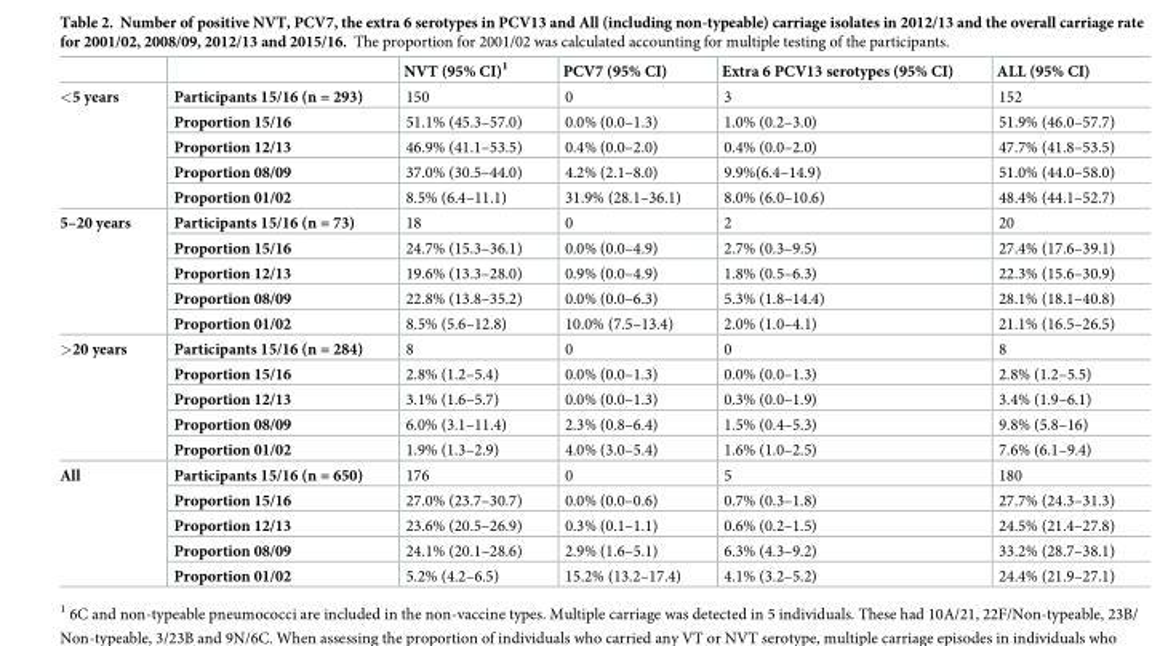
<table><thead><tr><td></td><td></td><td>NVT (95% CI)<sup>1</sup></td><td>PCV7 (95% CI)</td><td>Extra 6 PCV13 serotypes (95% CI)</td><td>ALL (95% CI)</td></tr></thead><tbody><tr><td rowspan="5">&lt;5 years</td><td>Participants 15/16 (n = 293)</td><td>150</td><td>0</td><td>3</td><td>152</td></tr><tr><td>Proportion 15/16</td><td>51.1% (45.3–57.0)</td><td>0.0% (0.0–1.3)</td><td>1.0% (0.2–3.0)</td><td>51.9% (46.0–57.7)</td></tr><tr><td>Proportion 12/13</td><td>46.9% (41.1–53.5)</td><td>0.4% (0.0–2.0)</td><td>0.4% (0.0–2.0)</td><td>47.7% (41.8–53.5)</td></tr><tr><td>Proportion 08/09</td><td>37.0% (30.5–44.0)</td><td>4.2% (2.1–8.0)</td><td>9.9%(6.4–14.9)</td><td>51.0% (44.0–58.0)</td></tr><tr><td>Proportion 01/02</td><td>8.5% (6.4–11.1)</td><td>31.9% (28.1–36.1)</td><td>8.0% (6.0–10.6)</td><td>48.4% (44.1–52.7)</td></tr><tr><td rowspan="5">5–20 years</td><td>Participants 15/16 (n = 73)</td><td>18</td><td>0</td><td>2</td><td>20</td></tr><tr><td>Proportion 15/16</td><td>24.7% (15.3–36.1)</td><td>0.0% (0.0–4.9)</td><td>2.7% (0.3–9.5)</td><td>27.4% (17.6–39.1)</td></tr><tr><td>Proportion 12/13</td><td>19.6% (13.3–28.0)</td><td>0.9% (0.0–4.9)</td><td>1.8% (0.5–6.3)</td><td>22.3% (15.6–30.9)</td></tr><tr><td>Proportion 08/09</td><td>22.8% (13.8–35.2)</td><td>0.0% (0.0–6.3)</td><td>5.3% (1.8–14.4)</td><td>28.1% (18.1–40.8)</td></tr><tr><td>Proportion 01/02</td><td>8.5% (5.6–12.8)</td><td>10.0% (7.5–13.4)</td><td>2.0% (1.0–4.1)</td><td>21.1% (16.5–26.5)</td></tr><tr><td rowspan="5">&gt;20 years</td><td>Participants 15/16 (n = 284)</td><td>8</td><td>0</td><td>0</td><td>8</td></tr><tr><td>Proportion 15/16</td><td>2.8% (1.2–5.4)</td><td>0.0% (0.0–1.3)</td><td>0.0% (0.0–1.3)</td><td>2.8% (1.2–5.5)</td></tr><tr><td>Proportion 12/13</td><td>3.1% (1.6–5.7)</td><td>0.0% (0.0–1.3)</td><td>0.3% (0.0–1.9)</td><td>3.4% (1.9–6.1)</td></tr><tr><td>Proportion 08/09</td><td>6.0% (3.1–11.4)</td><td>2.3% (0.8–6.4)</td><td>1.5% (0.4–5.3)</td><td>9.8% (5.8–16)</td></tr><tr><td>Proportion 01/02</td><td>1.9% (1.3–2.9)</td><td>4.0% (3.0–5.4)</td><td>1.6% (1.0–2.5)</td><td>7.6% (6.1–9.4)</td></tr><tr><td rowspan="5">All</td><td>Participants 15/16 (n = 650)</td><td>176</td><td>0</td><td>5</td><td>180</td></tr><tr><td>Proportion 15/16</td><td>27.0% (23.7–30.7)</td><td>0.0% (0.0–0.6)</td><td>0.7% (0.3–1.8)</td><td>27.7% (24.3–31.3)</td></tr><tr><td>Proportion 12/13</td><td>23.6% (20.5–26.9)</td><td>0.3% (0.1–1.1)</td><td>0.6% (0.2–1.5)</td><td>24.5% (21.4–27.8)</td></tr><tr><td>Proportion 08/09</td><td>24.1% (20.1–28.6)</td><td>2.9% (1.6–5.1)</td><td>6.3% (4.3–9.2)</td><td>33.2% (28.7–38.1)</td></tr><tr><td>Proportion 01/02</td><td>5.2% (4.2–6.5)</td><td>15.2% (13.2–17.4)</td><td>4.1% (3.2–5.2)</td><td>24.4% (21.9–27.1)</td></tr></tbody></table>